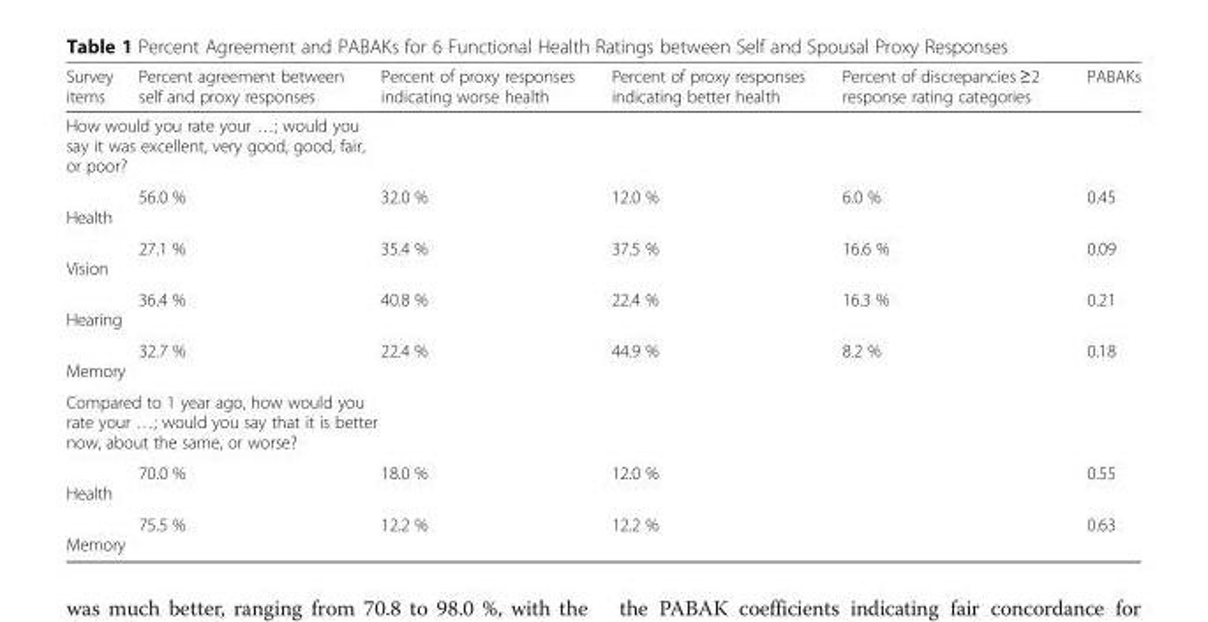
<table><thead><tr><td>Survey items</td><td>Percent agreement between self and proxy responses</td><td>Percent of proxy responses indicating worse health</td><td>Percent of proxy responses indicating better health</td><td>Percent of discrepancies ≥2 response rating categories</td><td>PABAKs</td></tr></thead><tbody><tr><td colspan="6">How would you rate your …; would you say it was excellent, very good, good, fair, or poor?</td></tr><tr><td>Health</td><td>56.0 %</td><td>32.0 %</td><td>12.0 %</td><td>6.0 %</td><td>0.45</td></tr><tr><td>Vision</td><td>27.1 %</td><td>35.4 %</td><td>37.5 %</td><td>16.6 %</td><td>0.09</td></tr><tr><td>Hearing</td><td>36.4 %</td><td>40.8 %</td><td>22.4 %</td><td>16.3 %</td><td>0.21</td></tr><tr><td>Memory</td><td>32.7 %</td><td>22.4 %</td><td>44.9 %</td><td>8.2 %</td><td>0.18</td></tr><tr><td colspan="6">Compared to 1 year ago, how would you rate your …; would you say that it is better now, about the same, or worse?</td></tr><tr><td>Health</td><td>70.0 %</td><td>18.0 %</td><td>12.0 %</td><td></td><td>0.55</td></tr><tr><td>Memory</td><td>75.5 %</td><td>12.2 %</td><td>12.2 %</td><td></td><td>0.63</td></tr></tbody></table>